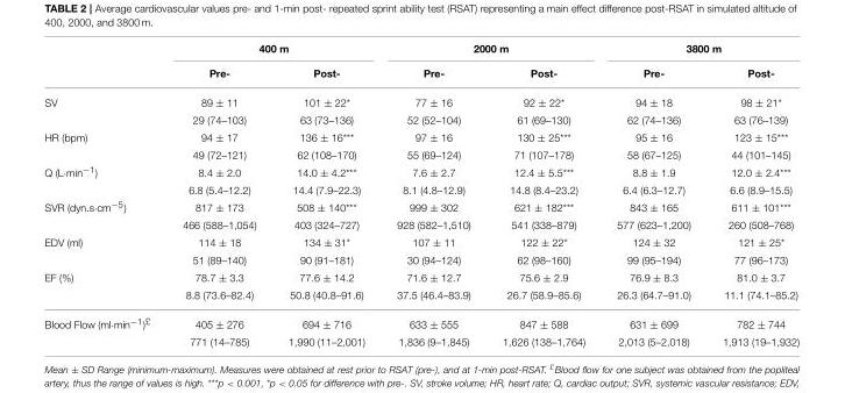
<table><thead><tr><td rowspan="2"></td><td colspan="2">400 m</td><td colspan="2">2000 m</td><td colspan="2">3800 m</td></tr><tr><td>Pre-</td><td>Post-</td><td>Pre-</td><td>Post-</td><td>Pre-</td><td>Post-</td></tr></thead><tbody><tr><td rowspan="2">SV</td><td>89 ± 11</td><td>101 ± 22*</td><td>77 ± 16</td><td>92 ± 22*</td><td>94 ± 18</td><td>98 ± 21*</td></tr><tr><td>29 (74–103)</td><td>63 (73–136)</td><td>52 (52–104)</td><td>61 (69–130)</td><td>62 (74–136)</td><td>63 (76–139)</td></tr><tr><td rowspan="2">HR (bpm)</td><td>94 ± 17</td><td>136 ± 16***</td><td>97 ± 16</td><td>130 ± 25***</td><td>95 ± 16</td><td>123 ± 15***</td></tr><tr><td>49 (72–121)</td><td>62 (108–170)</td><td>55 (69–124)</td><td>71 (107–178)</td><td>58 (67–125)</td><td>44 (101–145)</td></tr><tr><td rowspan="2">Q (L·min<sup>−1</sup>)</td><td>8.4 ± 2.0</td><td>14.0 ± 4.2***</td><td>7.6 ± 2.7</td><td>12.4 ± 5.5***</td><td>8.8 ± 1.9</td><td>12.0 ± 2.4***</td></tr><tr><td>6.8 (5.4–12.2)</td><td>14.4 (7.9–22.3)</td><td>8.1 (4.8–12.9)</td><td>14.8 (8.4–23.2)</td><td>6.4 (6.3–12.7)</td><td>6.6 (8.9–15.5)</td></tr><tr><td rowspan="2">SVR (dyn.s·cm<sup>−5</sup>)</td><td>817 ± 173</td><td>508 ± 140***</td><td>999 ± 302</td><td>621 ± 182***</td><td>843 ± 165</td><td>611 ± 101***</td></tr><tr><td>466 (588–1,054)</td><td>403 (324–727)</td><td>928 (582–1,510)</td><td>541 (338–879)</td><td>577 (623–1,200)</td><td>260 (508–768)</td></tr><tr><td rowspan="2">EDV (ml)</td><td>114 ± 18</td><td>134 ± 31*</td><td>107 ± 11</td><td>122 ± 22*</td><td>124 ± 32</td><td>121 ± 25*</td></tr><tr><td>51 (89–140)</td><td>90 (91–181)</td><td>30 (94–124)</td><td>62 (98–160)</td><td>99 (95–194)</td><td>77 (96–173)</td></tr><tr><td rowspan="2">EF (%)</td><td>78.7 ± 3.3</td><td>77.6 ± 14.2</td><td>71.6 ± 12.7</td><td>75.6 ± 2.9</td><td>76.9 ± 8.3</td><td>81.0 ± 3.7</td></tr><tr><td>8.8 (73.6–82.4)</td><td>50.8 (40.8–91.6)</td><td>37.5 (46.4–83.9)</td><td>26.7 (58.9–85.6)</td><td>26.3 (64.7–91.0)</td><td>11.1 (74.1–85.2)</td></tr><tr><td rowspan="2">Blood Flow (ml·min<sup>−1</sup>)<sup>£</sup></td><td>405 ± 276</td><td>694 ± 716</td><td>633 ± 555</td><td>847 ± 588</td><td>631 ± 699</td><td>782 ± 744</td></tr><tr><td>771 (14–785)</td><td>1,990 (11–2,001)</td><td>1,836 (9–1,845)</td><td>1,626 (138–1,764)</td><td>2,013 (5–2,018)</td><td>1,913 (19–1,932)</td></tr></tbody></table>